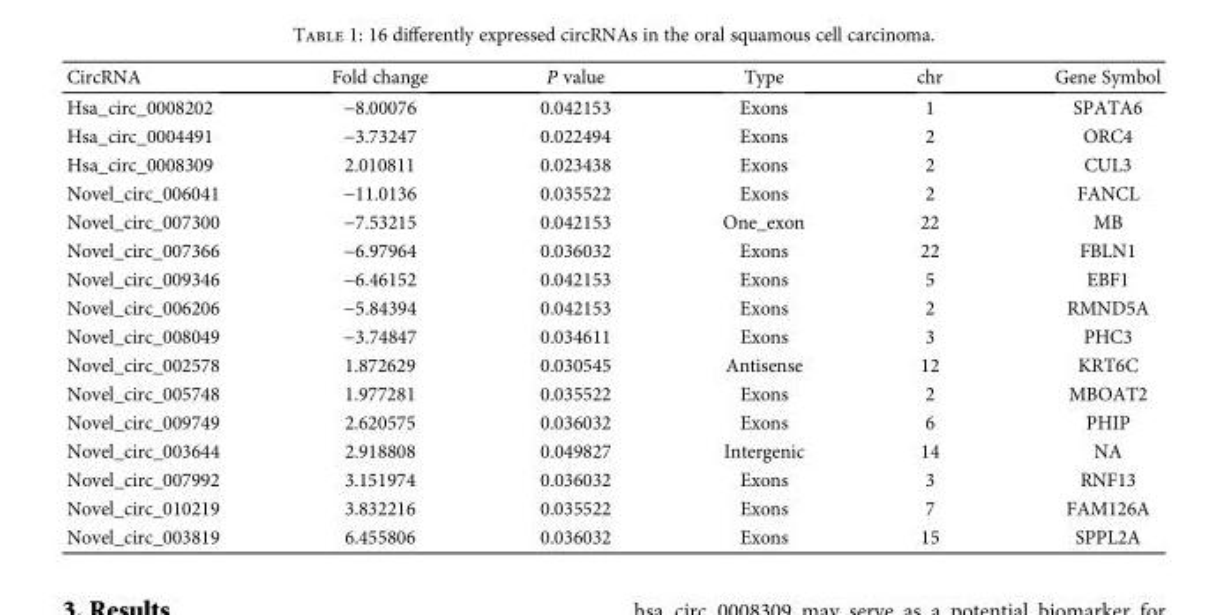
<table><thead><tr><td>CircRNA</td><td>Fold change</td><td>P value</td><td>Type</td><td>chr</td><td>Gene Symbol</td></tr></thead><tbody><tr><td>Hsa_circ_0008202</td><td>−8.00076</td><td>0.042153</td><td>Exons</td><td>1</td><td>SPATA6</td></tr><tr><td>Hsa_circ_0004491</td><td>−3.73247</td><td>0.022494</td><td>Exons</td><td>2</td><td>ORC4</td></tr><tr><td>Hsa_circ_0008309</td><td>2.010811</td><td>0.023438</td><td>Exons</td><td>2</td><td>CUL3</td></tr><tr><td>Novel_circ_006041</td><td>−11.0136</td><td>0.035522</td><td>Exons</td><td>2</td><td>FANCL</td></tr><tr><td>Novel_circ_007300</td><td>−7.53215</td><td>0.042153</td><td>One_exon</td><td>22</td><td>MB</td></tr><tr><td>Novel_circ_007366</td><td>−6.97964</td><td>0.036032</td><td>Exons</td><td>22</td><td>FBLN1</td></tr><tr><td>Novel_circ_009346</td><td>−6.46152</td><td>0.042153</td><td>Exons</td><td>5</td><td>EBF1</td></tr><tr><td>Novel_circ_006206</td><td>−5.84394</td><td>0.042153</td><td>Exons</td><td>2</td><td>RMND5A</td></tr><tr><td>Novel_circ_008049</td><td>−3.74847</td><td>0.034611</td><td>Exons</td><td>3</td><td>PHC3</td></tr><tr><td>Novel_circ_002578</td><td>1.872629</td><td>0.030545</td><td>Antisense</td><td>12</td><td>KRT6C</td></tr><tr><td>Novel_circ_005748</td><td>1.977281</td><td>0.035522</td><td>Exons</td><td>2</td><td>MBOAT2</td></tr><tr><td>Novel_circ_009749</td><td>2.620575</td><td>0.036032</td><td>Exons</td><td>6</td><td>PHIP</td></tr><tr><td>Novel_circ_003644</td><td>2.918808</td><td>0.049827</td><td>Intergenic</td><td>14</td><td>NA</td></tr><tr><td>Novel_circ_007992</td><td>3.151974</td><td>0.036032</td><td>Exons</td><td>3</td><td>RNF13</td></tr><tr><td>Novel_circ_010219</td><td>3.832216</td><td>0.035522</td><td>Exons</td><td>7</td><td>FAM126A</td></tr><tr><td>Novel_circ_003819</td><td>6.455806</td><td>0.036032</td><td>Exons</td><td>15</td><td>SPPL2A</td></tr></tbody></table>